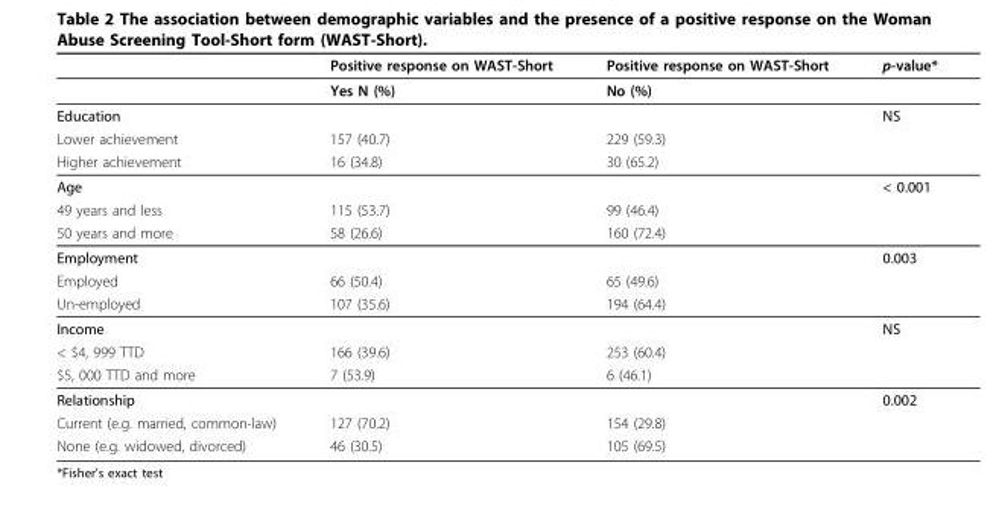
<table><thead><tr><td></td><td>Positive response on WAST-Short</td><td>Positive response on WAST-Short</td><td>p-value*</td></tr></thead><tbody><tr><td></td><td>Yes N (%)</td><td>No (%)</td><td></td></tr><tr><td>Education</td><td></td><td></td><td>NS</td></tr><tr><td>Lower achievement</td><td>157 (40.7)</td><td>229 (59.3)</td><td></td></tr><tr><td>Higher achievement</td><td>16 (34.8)</td><td>30 (65.2)</td><td></td></tr><tr><td>Age</td><td></td><td></td><td>&lt; 0.001</td></tr><tr><td>49 years and less</td><td>115 (53.7)</td><td>99 (46.4)</td><td></td></tr><tr><td>50 years and more</td><td>58 (26.6)</td><td>160 (72.4)</td><td></td></tr><tr><td>Employment</td><td></td><td></td><td>0.003</td></tr><tr><td>Employed</td><td>66 (50.4)</td><td>65 (49.6)</td><td></td></tr><tr><td>Un-employed</td><td>107 (35.6)</td><td>194 (64.4)</td><td></td></tr><tr><td>Income</td><td></td><td></td><td>NS</td></tr><tr><td>&lt; $4, 999 TTD</td><td>166 (39.6)</td><td>253 (60.4)</td><td></td></tr><tr><td>$5, 000 TTD and more</td><td>7 (53.9)</td><td>6 (46.1)</td><td></td></tr><tr><td>Relationship</td><td></td><td></td><td>0.002</td></tr><tr><td>Current (e.g. married, common-law)</td><td>127 (70.2)</td><td>154 (29.8)</td><td></td></tr><tr><td>None (e.g. widowed, divorced)</td><td>46 (30.5)</td><td>105 (69.5)</td><td></td></tr></tbody></table>